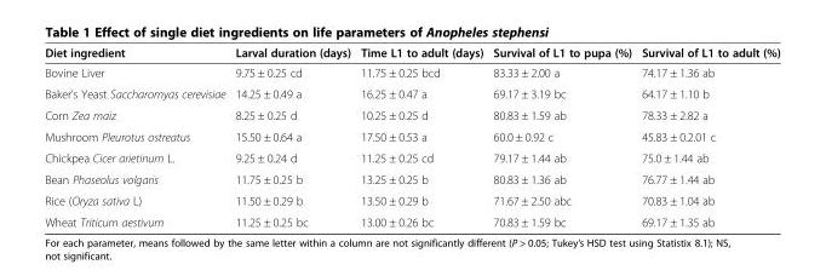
<table><thead><tr><td>Diet ingredient</td><td>Larval duration (days)</td><td>Time L1 to adult (days)</td><td>Survival of L1 to pupa (%)</td><td>Survival of L1 to adult (%)</td></tr></thead><tbody><tr><td>Bovine Liver</td><td>9.75 ± 0.25 cd</td><td>11.75 ± 0.25 bcd</td><td>83.33 ± 2.00 a</td><td>74.17 ± 1.36 ab</td></tr><tr><td>Baker’s Yeast Saccharomyas cerevisiae</td><td>14.25 ± 0.49 a</td><td>16.25 ± 0.47 a</td><td>69.17 ± 3.19 bc</td><td>64.17 ± 1.10 b</td></tr><tr><td>Corn Zea maiz</td><td>8.25 ± 0.25 d</td><td>10.25 ± 0.25 d</td><td>80.83 ± 1.59 ab</td><td>78.33 ± 2.82 a</td></tr><tr><td>Mushroom Pleurotus ostreatus</td><td>15.50 ± 0.64 a</td><td>17.50 ± 0.53 a</td><td>60.0 ± 0.92 c</td><td>45.83 ± 0.2.01 c</td></tr><tr><td>Chickpea Cicer arietinum L.</td><td>9.25 ± 0.24 d</td><td>11.25 ± 0.25 cd</td><td>79.17 ± 1.44 ab</td><td>75.0 ± 1.44 ab</td></tr><tr><td>Bean Phaseolus volgaris</td><td>11.75 ± 0.25 b</td><td>13.25 ± 0.25 b</td><td>80.83 ± 1.36 ab</td><td>76.77 ± 1.44 ab</td></tr><tr><td>Rice (Oryza sativa L)</td><td>11.50 ± 0.29 b</td><td>13.50 ± 0.29 b</td><td>71.67 ± 2.50 abc</td><td>70.83 ± 1.04 ab</td></tr><tr><td>Wheat Triticum aestivum</td><td>11.25 ± 0.25 bc</td><td>13.00 ± 0.26 bc</td><td>70.83 ± 1.59 bc</td><td>69.17 ± 1.35 ab</td></tr></tbody></table>